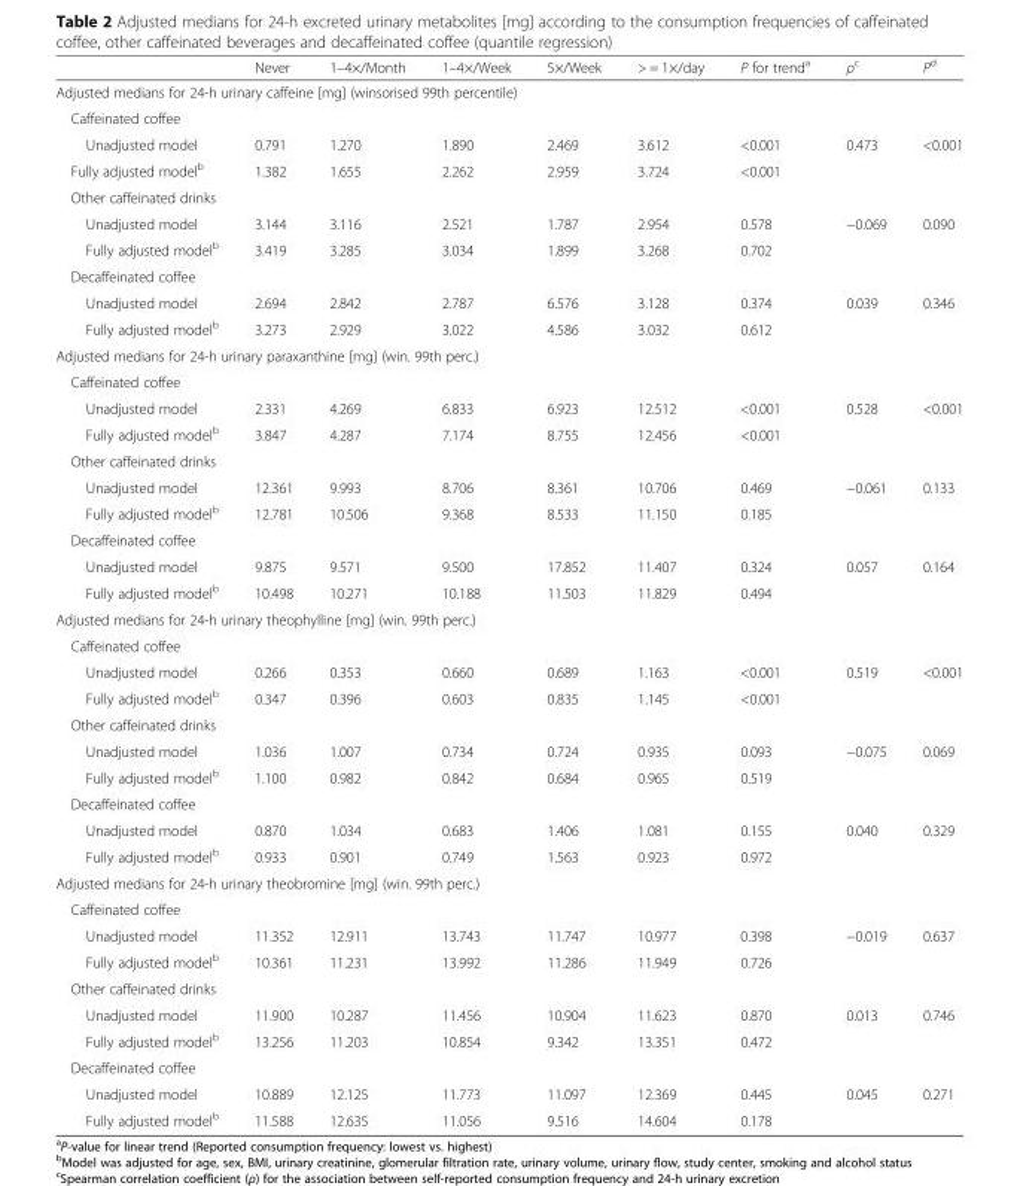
<table><thead><tr><td></td><td>Never</td><td>1–4×/Month</td><td>1–4×/Week</td><td>5×/Week</td><td>&gt; = 1×/day</td><td>P for trend<sup>a</sup></td><td>ρ<sup>c</sup></td><td>P<sup>d</sup></td></tr></thead><tbody><tr><td colspan="9">Adjusted medians for 24-h urinary caffeine [mg] (winsorised 99th percentile)</td></tr><tr><td colspan="9">Caffeinated coffee</td></tr><tr><td>Unadjusted model</td><td>0.791</td><td>1.270</td><td>1.890</td><td>2.469</td><td>3.612</td><td>&lt;0.001</td><td>0.473</td><td>&lt;0.001</td></tr><tr><td>Fully adjusted model<sup>b</sup></td><td>1.382</td><td>1.655</td><td>2.262</td><td>2.959</td><td>3.724</td><td>&lt;0.001</td><td></td><td></td></tr><tr><td colspan="9">Other caffeinated drinks</td></tr><tr><td>Unadjusted model</td><td>3.144</td><td>3.116</td><td>2.521</td><td>1.787</td><td>2.954</td><td>0.578</td><td>−0.069</td><td>0.090</td></tr><tr><td>Fully adjusted model<sup>b</sup></td><td>3.419</td><td>3.285</td><td>3.034</td><td>1.899</td><td>3.268</td><td>0.702</td><td></td><td></td></tr><tr><td colspan="9">Decaffeinated coffee</td></tr><tr><td>Unadjusted model</td><td>2.694</td><td>2.842</td><td>2.787</td><td>6.576</td><td>3.128</td><td>0.374</td><td>0.039</td><td>0.346</td></tr><tr><td>Fully adjusted model<sup>b</sup></td><td>3.273</td><td>2.929</td><td>3.022</td><td>4.586</td><td>3.032</td><td>0.612</td><td></td><td></td></tr><tr><td colspan="9">Adjusted medians for 24-h urinary paraxanthine [mg] (win. 99th perc.)</td></tr><tr><td colspan="9">Caffeinated coffee</td></tr><tr><td>Unadjusted model</td><td>2.331</td><td>4.269</td><td>6.833</td><td>6.923</td><td>12.512</td><td>&lt;0.001</td><td>0.528</td><td>&lt;0.001</td></tr><tr><td>Fully adjusted model<sup>b</sup></td><td>3.847</td><td>4.287</td><td>7.174</td><td>8.755</td><td>12.456</td><td>&lt;0.001</td><td></td><td></td></tr><tr><td colspan="9">Other caffeinated drinks</td></tr><tr><td>Unadjusted model</td><td>12.361</td><td>9.993</td><td>8.706</td><td>8.361</td><td>10.706</td><td>0.469</td><td>−0.061</td><td>0.133</td></tr><tr><td>Fully adjusted model<sup>b</sup></td><td>12.781</td><td>10.506</td><td>9.368</td><td>8.533</td><td>11.150</td><td>0.185</td><td></td><td></td></tr><tr><td colspan="9">Decaffeinated coffee</td></tr><tr><td>Unadjusted model</td><td>9.875</td><td>9.571</td><td>9.500</td><td>17.852</td><td>11.407</td><td>0.324</td><td>0.057</td><td>0.164</td></tr><tr><td>Fully adjusted model<sup>b</sup></td><td>10.498</td><td>10.271</td><td>10.188</td><td>11.503</td><td>11.829</td><td>0.494</td><td></td><td></td></tr><tr><td colspan="9">Adjusted medians for 24-h urinary theophylline [mg] (win. 99th perc.)</td></tr><tr><td colspan="9">Caffeinated coffee</td></tr><tr><td>Unadjusted model</td><td>0.266</td><td>0.353</td><td>0.660</td><td>0.689</td><td>1.163</td><td>&lt;0.001</td><td>0.519</td><td>&lt;0.001</td></tr><tr><td>Fully adjusted model<sup>b</sup></td><td>0.347</td><td>0.396</td><td>0.603</td><td>0.835</td><td>1.145</td><td>&lt;0.001</td><td></td><td></td></tr><tr><td colspan="9">Other caffeinated drinks</td></tr><tr><td>Unadjusted model</td><td>1.036</td><td>1.007</td><td>0.734</td><td>0.724</td><td>0.935</td><td>0.093</td><td>−0.075</td><td>0.069</td></tr><tr><td>Fully adjusted model<sup>b</sup></td><td>1.100</td><td>0.982</td><td>0.842</td><td>0.684</td><td>0.965</td><td>0.519</td><td></td><td></td></tr><tr><td colspan="9">Decaffeinated coffee</td></tr><tr><td>Unadjusted model</td><td>0.870</td><td>1.034</td><td>0.683</td><td>1.406</td><td>1.081</td><td>0.155</td><td>0.040</td><td>0.329</td></tr><tr><td>Fully adjusted model<sup>b</sup></td><td>0.933</td><td>0.901</td><td>0.749</td><td>1.563</td><td>0.923</td><td>0.972</td><td></td><td></td></tr><tr><td colspan="9">Adjusted medians for 24-h urinary theobromine [mg] (win. 99th perc.)</td></tr><tr><td colspan="9">Caffeinated coffee</td></tr><tr><td>Unadjusted model</td><td>11.352</td><td>12.911</td><td>13.743</td><td>11.747</td><td>10.977</td><td>0.398</td><td>−0.019</td><td>0.637</td></tr><tr><td>Fully adjusted model<sup>b</sup></td><td>10.361</td><td>11.231</td><td>13.992</td><td>11.286</td><td>11.949</td><td>0.726</td><td></td><td></td></tr><tr><td colspan="9">Other caffeinated drinks</td></tr><tr><td>Unadjusted model</td><td>11.900</td><td>10.287</td><td>11.456</td><td>10.904</td><td>11.623</td><td>0.870</td><td>0.013</td><td>0.746</td></tr><tr><td>Fully adjusted model<sup>b</sup></td><td>13.256</td><td>11.203</td><td>10.854</td><td>9.342</td><td>13.351</td><td>0.472</td><td></td><td></td></tr><tr><td colspan="9">Decaffeinated coffee</td></tr><tr><td>Unadjusted model</td><td>10.889</td><td>12.125</td><td>11.773</td><td>11.097</td><td>12.369</td><td>0.445</td><td>0.045</td><td>0.271</td></tr><tr><td>Fully adjusted model<sup>b</sup></td><td>11.588</td><td>12.635</td><td>11.056</td><td>9.516</td><td>14.604</td><td>0.178</td><td></td><td></td></tr></tbody></table>